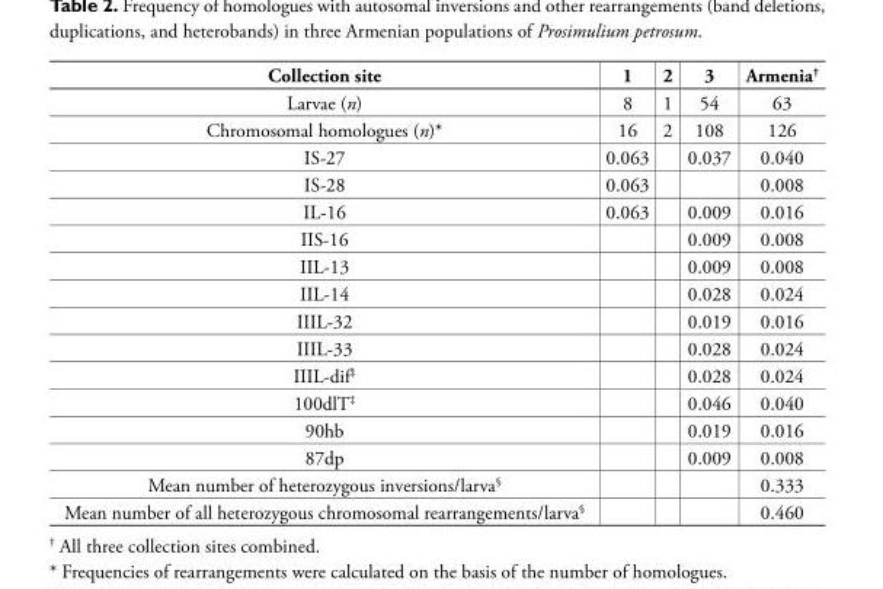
<table><thead><tr><td>Collection site</td><td>1</td><td>2</td><td>3</td><td>Armenia<sup>†</sup></td></tr></thead><tbody><tr><td>Larvae (n)</td><td>8</td><td>1</td><td>54</td><td>63</td></tr><tr><td>Chromosomal homologues (n)*</td><td>16</td><td>2</td><td>108</td><td>126</td></tr><tr><td>IS-27</td><td>0.063</td><td></td><td>0.037</td><td>0.040</td></tr><tr><td>IS-28</td><td>0.063</td><td></td><td></td><td>0.008</td></tr><tr><td>IL-16</td><td>0.063</td><td></td><td>0.009</td><td>0.016</td></tr><tr><td>IIS-16</td><td></td><td></td><td>0.009</td><td>0.008</td></tr><tr><td>IIL-13</td><td></td><td></td><td>0.009</td><td>0.008</td></tr><tr><td>IIL-14</td><td></td><td></td><td>0.028</td><td>0.024</td></tr><tr><td>IIIL-32</td><td></td><td></td><td>0.019</td><td>0.016</td></tr><tr><td>IIIL-33</td><td></td><td></td><td>0.028</td><td>0.024</td></tr><tr><td>IIIL-dif<sup>‡</sup></td><td></td><td></td><td>0.028</td><td>0.024</td></tr><tr><td>100dlT<sup>‡</sup></td><td></td><td></td><td>0.046</td><td>0.040</td></tr><tr><td>90hb</td><td></td><td></td><td>0.019</td><td>0.016</td></tr><tr><td>87dp</td><td></td><td></td><td>0.009</td><td>0.008</td></tr><tr><td>Mean number of heterozygous inversions/larva<sup>§</sup></td><td></td><td></td><td></td><td>0.333</td></tr><tr><td>Mean number of all heterozygous chromosomal rearrangements/larva<sup>§</sup></td><td></td><td></td><td></td><td>0.460</td></tr></tbody></table>